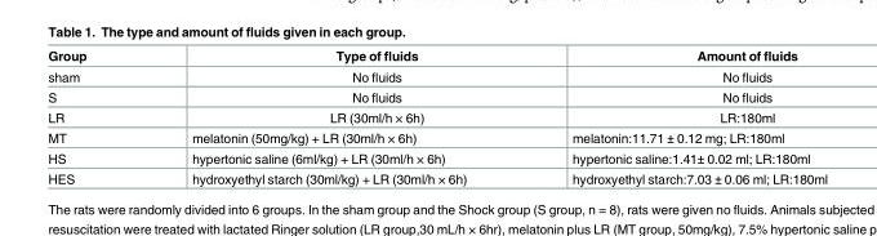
<table><thead><tr><td>Group</td><td>Type of fluids</td><td>Amount of fluids</td></tr></thead><tbody><tr><td>sham</td><td>No fluids</td><td>No fluids</td></tr><tr><td>S</td><td>No fluids</td><td>No fluids</td></tr><tr><td>LR</td><td>LR (30ml/h × 6h)</td><td>LR:180ml</td></tr><tr><td>MT</td><td>melatonin (50mg/kg) + LR (30ml/h × 6h)</td><td>melatonin:11.71 ± 0.12 mg; LR:180ml</td></tr><tr><td>HS</td><td>hypertonic saline (6ml/kg) + LR (30ml/h × 6h)</td><td>hypertonic saline:1.41± 0.02 ml; LR:180ml</td></tr><tr><td>HES</td><td>hydroxyethyl starch (30ml/kg) + LR (30ml/h × 6h)</td><td>hydroxyethyl starch:7.03 ± 0.06 ml; LR:180ml</td></tr></tbody></table>